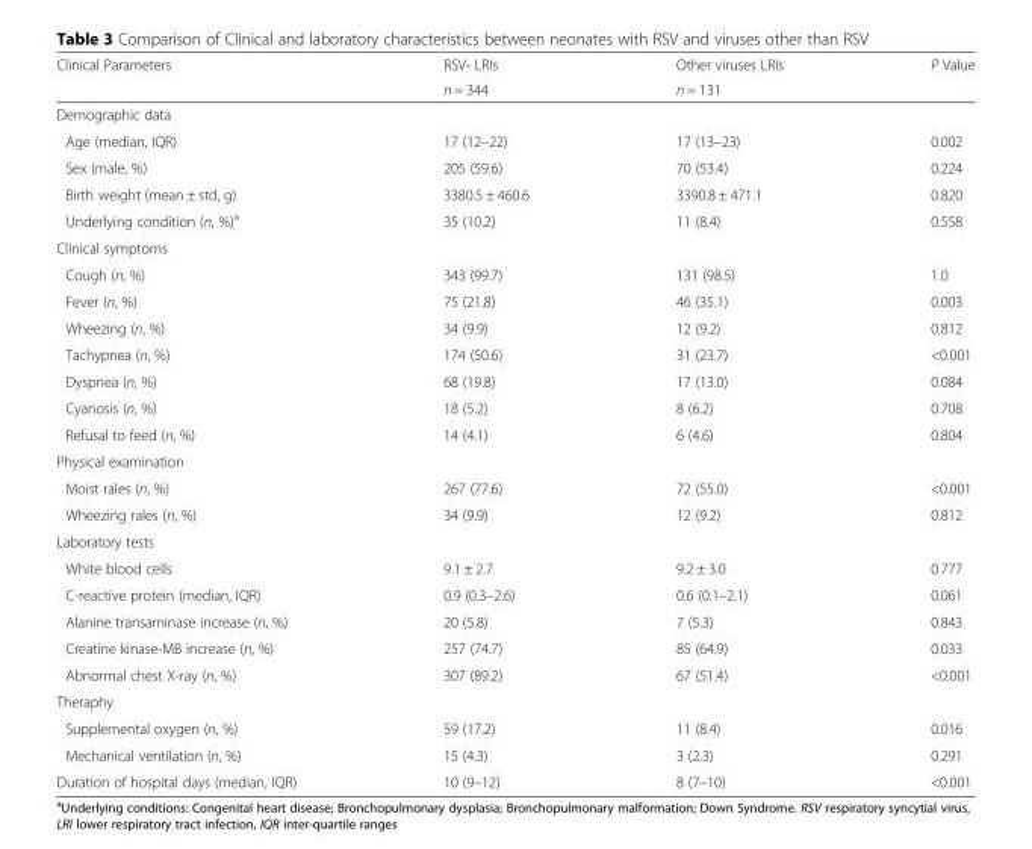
<table><thead><tr><td rowspan="2">Clinical Parameters</td><td rowspan="2">RSV- LRIs n = 344</td><td rowspan="2">Other viruses LRIs n = 131</td><td rowspan="2">P Value</td></tr><tr></tr></thead><tbody><tr><td colspan="4">Demographic data</td></tr><tr><td>Age (median, IQR)</td><td>17 (12–22)</td><td>17 (13–23)</td><td>0.002</td></tr><tr><td>Sex (male, %)</td><td>205 (59.6)</td><td>70 (53.4)</td><td>0.224</td></tr><tr><td>Birth weight (mean ± std, g)</td><td>3380.5 ± 460.6</td><td>3390.8 ± 471.1</td><td>0.820</td></tr><tr><td>Underlying condition (n, %)<sup>a</sup></td><td>35 (10.2)</td><td>11 (8.4)</td><td>0.558</td></tr><tr><td colspan="4">Clinical symptoms</td></tr><tr><td>Cough (n, %)</td><td>343 (99.7)</td><td>131 (98.5)</td><td>1.0</td></tr><tr><td>Fever (n, %)</td><td>75 (21.8)</td><td>46 (35.1)</td><td>0.003</td></tr><tr><td>Wheezing (n, %)</td><td>34 (9.9)</td><td>12 (9.2)</td><td>0.812</td></tr><tr><td>Tachypnea (n, %)</td><td>174 (50.6)</td><td>31 (23.7)</td><td>&lt;0.001</td></tr><tr><td>Dyspnea (n, %)</td><td>68 (19.8)</td><td>17 (13.0)</td><td>0.084</td></tr><tr><td>Cyanosis (n, %)</td><td>18 (5.2)</td><td>8 (6.2)</td><td>0.708</td></tr><tr><td>Refusal to feed (n, %)</td><td>14 (4.1)</td><td>6 (4.6)</td><td>0.804</td></tr><tr><td colspan="4">Physical examination</td></tr><tr><td>Moist rales (n, %)</td><td>267 (77.6)</td><td>72 (55.0)</td><td>&lt;0.001</td></tr><tr><td>Wheezing rales (n, %)</td><td>34 (9.9)</td><td>12 (9.2)</td><td>0.812</td></tr><tr><td colspan="4">Laboratory tests</td></tr><tr><td>White blood cells</td><td>9.1 ± 2.7</td><td>9.2 ± 3.0</td><td>0.777</td></tr><tr><td>C-reactive protein (median, IQR)</td><td>0.9 (0.3–2.6)</td><td>0.6 (0.1–2.1)</td><td>0.061</td></tr><tr><td>Alanine transarninase increase (n, %)</td><td>20 (5.8)</td><td>7 (5.3)</td><td>0.843</td></tr><tr><td>Creatine kinase-MB increase (n, %)</td><td>257 (74.7)</td><td>85 (64.9)</td><td>0.033</td></tr><tr><td>Abnormal chest X-ray (n, %)</td><td>307 (89.2)</td><td>67 (51.4)</td><td>&lt;0.001</td></tr><tr><td colspan="4">Theraphy</td></tr><tr><td>Supplemental oxygen (n, %)</td><td>59 (17.2)</td><td>11 (8.4)</td><td>0.016</td></tr><tr><td>Mechanical ventilation (n, %)</td><td>15 (4.3)</td><td>3 (2.3)</td><td>0.291</td></tr><tr><td>Duration of hospital days (median, IQR)</td><td>10 (9–12)</td><td>8 (7–10)</td><td>&lt;0.001</td></tr></tbody></table>